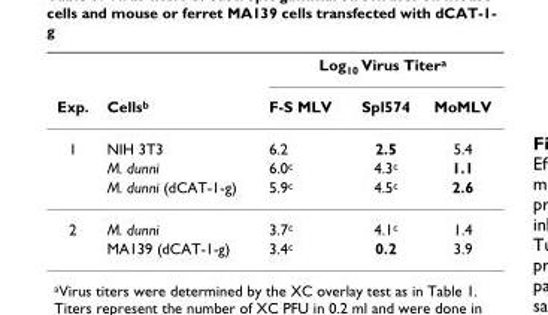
<table><thead><tr><td rowspan="2">Exp.</td><td rowspan="2">Cells<sup>b</sup></td><td colspan="3">Log<sub>10</sub> Virus Titer<sup>a</sup></td></tr><tr><td>F-S MLV</td><td>Spl574</td><td>MoMLV</td></tr></thead><tbody><tr><td rowspan="3">1</td><td>NIH 3T3</td><td>6.2</td><td>2.5</td><td>5.4</td></tr><tr><td>M. dunni</td><td>6.0<sup>c</sup></td><td>4.3<sup>c</sup></td><td>1.1</td></tr><tr><td>M. dunni (dCAT-1-g)</td><td>5.9<sup>c</sup></td><td>4.5<sup>c</sup></td><td>2.6</td></tr><tr><td rowspan="2">2</td><td>M. dunni</td><td>3.7<sup>c</sup></td><td>4.1<sup>c</sup></td><td>1.4</td></tr><tr><td>MA139 (dCAT-1-g)</td><td>3.4<sup>c</sup></td><td>0.2</td><td>3.9</td></tr></tbody></table>